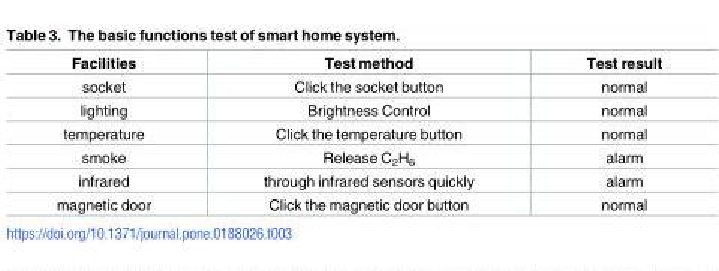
<table><thead><tr><td>Facilities</td><td>Test method</td><td>Test result</td></tr></thead><tbody><tr><td>socket</td><td>Click the socket button</td><td>normal</td></tr><tr><td>lighting</td><td>Brightness Control</td><td>normal</td></tr><tr><td>temperature</td><td>Click the temperature button</td><td>normal</td></tr><tr><td>smoke</td><td>Release C<sub>2</sub>H<sub>6</sub></td><td>alarm</td></tr><tr><td>infrared</td><td>through infrared sensors quickly</td><td>alarm</td></tr><tr><td>magnetic door</td><td>Click the magnetic door button</td><td>normal</td></tr></tbody></table>